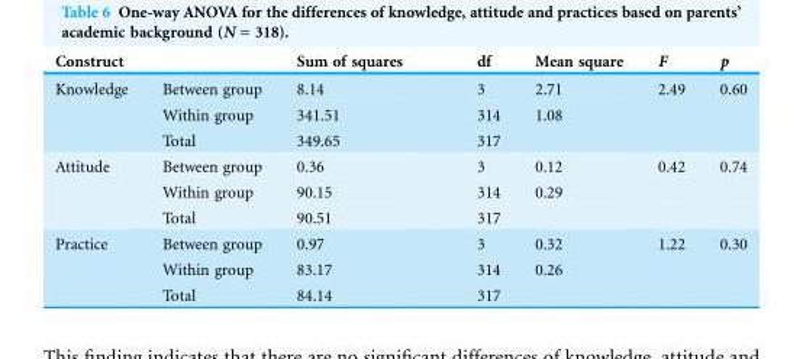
<table><thead><tr><td>Construct</td><td></td><td>Sum of squares</td><td>df</td><td>Mean square</td><td>F</td><td>p</td></tr></thead><tbody><tr><td rowspan="3">Knowledge</td><td>Between group</td><td>8.14</td><td>3</td><td>2.71</td><td rowspan="2">2.49</td><td rowspan="2">0.60</td></tr><tr><td>Within group</td><td>341.51</td><td>314</td><td>1.08</td></tr><tr><td>Total</td><td>349.65</td><td>317</td><td></td><td></td><td></td></tr><tr><td rowspan="3">Attitude</td><td>Between group</td><td>0.36</td><td>3</td><td>0.12</td><td rowspan="2">0.42</td><td rowspan="2">0.74</td></tr><tr><td>Within group</td><td>90.15</td><td>314</td><td>0.29</td></tr><tr><td>Total</td><td>90.51</td><td>317</td><td></td><td></td><td></td></tr><tr><td rowspan="3">Practice</td><td>Between group</td><td>0.97</td><td>3</td><td>0.32</td><td rowspan="2">1.22</td><td rowspan="2">0.30</td></tr><tr><td>Within group</td><td>83.17</td><td>314</td><td>0.26</td></tr><tr><td>Total</td><td>84.14</td><td>317</td><td></td><td></td><td></td></tr></tbody></table>